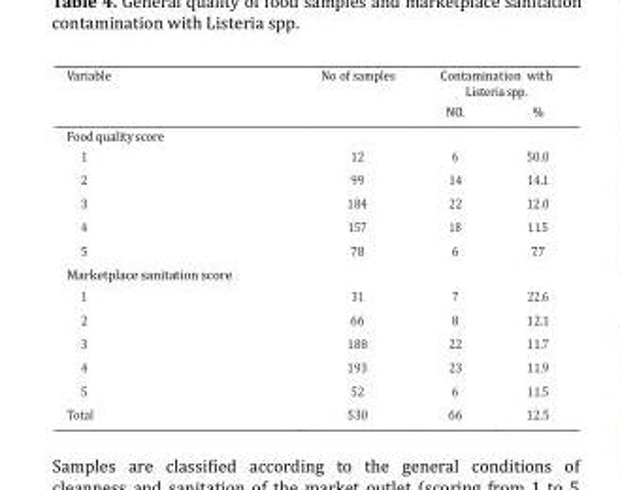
<table><thead><tr><td rowspan="2">Variable</td><td rowspan="2">No of samples</td><td colspan="2">Contamination with Listeria spp.</td></tr><tr><td>NO.</td><td>%</td></tr></thead><tbody><tr><td colspan="4">Food quality score</td></tr><tr><td>1</td><td>12</td><td>6</td><td>50.0</td></tr><tr><td>2</td><td>99</td><td>14</td><td>14.1</td></tr><tr><td>3</td><td>184</td><td>22</td><td>12.0</td></tr><tr><td>4</td><td>157</td><td>18</td><td>11.5</td></tr><tr><td>5</td><td>78</td><td>6</td><td>7.7</td></tr><tr><td colspan="4">Marketplace sanitation score</td></tr><tr><td>1</td><td>31</td><td>7</td><td>22.6</td></tr><tr><td>2</td><td>66</td><td>8</td><td>12.1</td></tr><tr><td>3</td><td>188</td><td>22</td><td>11.7</td></tr><tr><td>4</td><td>193</td><td>23</td><td>11.9</td></tr><tr><td>5</td><td>52</td><td>6</td><td>11.5</td></tr><tr><td>Total</td><td>530</td><td>66</td><td>12.5</td></tr></tbody></table>